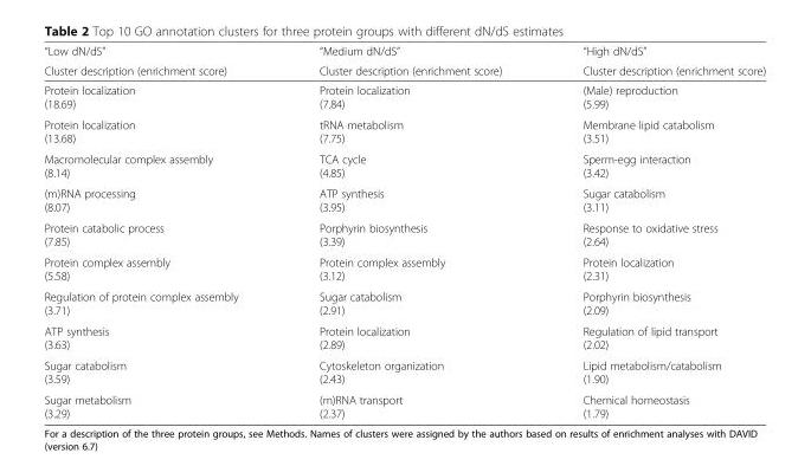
<table><thead><tr><td rowspan="2">“Low dN/dS” Cluster description (enrichment score)</td><td rowspan="2">“Medium dN/dS” Cluster description (enrichment score)</td><td rowspan="2">“High dN/dS” Cluster description (enrichment score)</td></tr><tr></tr></thead><tbody><tr><td>Protein localization (18.69)</td><td>Protein localization (7.84)</td><td>(Male) reproduction (5.99)</td></tr><tr><td>Protein localization (13.68)</td><td>tRNA metabolism (7.75)</td><td>Membrane lipid catabolism (3.51)</td></tr><tr><td>Macromolecular complex assembly (8.14)</td><td>TCA cycle (4.85)</td><td>Sperm-egg interaction (3.42)</td></tr><tr><td>(m)RNA processing (8.07)</td><td>ATP synthesis (3.95)</td><td>Sugar catabolism (3.11)</td></tr><tr><td>Protein catabolic process (7.85)</td><td>Porphyrin biosynthesis (3.39)</td><td>Response to oxidative stress (2.64)</td></tr><tr><td>Protein complex assembly (5.58)</td><td>Protein complex assembly (3.12)</td><td>Protein localization (2.31)</td></tr><tr><td>Regulation of protein complex assembly (3.71)</td><td>Sugar catabolism (2.91)</td><td>Porphyrin biosynthesis (2.09)</td></tr><tr><td>ATP synthesis (3.63)</td><td>Protein localization (2.89)</td><td>Regulation of lipid transport (2.02)</td></tr><tr><td>Sugar catabolism (3.59)</td><td>Cytoskeleton organization (2.43)</td><td>Lipid metabolism/catabolism (1.90)</td></tr><tr><td>Sugar metabolism (3.29)</td><td>(m)RNA transport (2.37)</td><td>Chemical homeostasis (1.79)</td></tr></tbody></table>